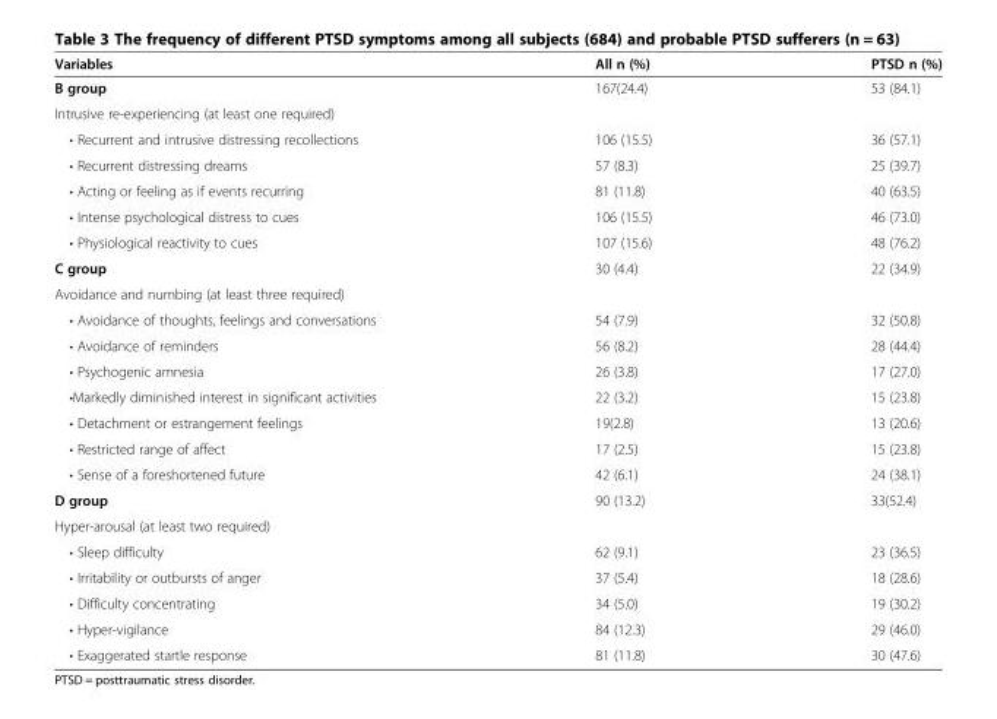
<table><thead><tr><td>Variables</td><td>All n (%)</td><td>PTSD n (%)</td></tr></thead><tbody><tr><td>B group</td><td rowspan="2">167(24.4)</td><td rowspan="2">53 (84.1)</td></tr><tr><td>Intrusive re-experiencing (at least one required)</td></tr><tr><td>• Recurrent and intrusive distressing recollections</td><td>106 (15.5)</td><td>36 (57.1)</td></tr><tr><td>• Recurrent distressing dreams</td><td>57 (8.3)</td><td>25 (39.7)</td></tr><tr><td>• Acting or feeling as if events recurring</td><td>81 (11.8)</td><td>40 (63.5)</td></tr><tr><td>• Intense psychological distress to cues</td><td>106 (15.5)</td><td>46 (73.0)</td></tr><tr><td>• Physiological reactivity to cues</td><td>107 (15.6)</td><td>48 (76.2)</td></tr><tr><td>C group</td><td rowspan="2">30 (4.4)</td><td rowspan="2">22 (34.9)</td></tr><tr><td>Avoidance and numbing (at least three required)</td></tr><tr><td>• Avoidance of thoughts, feelings and conversations</td><td>54 (7.9)</td><td>32 (50.8)</td></tr><tr><td>• Avoidance of reminders</td><td>56 (8.2)</td><td>28 (44.4)</td></tr><tr><td>• Psychogenic amnesia</td><td>26 (3.8)</td><td>17 (27.0)</td></tr><tr><td>•Markedly diminished interest in significant activities</td><td>22 (3.2)</td><td>15 (23.8)</td></tr><tr><td>• Detachment or estrangement feelings</td><td>19(2.8)</td><td>13 (20.6)</td></tr><tr><td>• Restricted range of affect</td><td>17 (2.5)</td><td>15 (23.8)</td></tr><tr><td>• Sense of a foreshortened future</td><td>42 (6.1)</td><td>24 (38.1)</td></tr><tr><td>D group</td><td rowspan="2">90 (13.2)</td><td rowspan="2">33(52.4)</td></tr><tr><td>Hyper-arousal (at least two required)</td></tr><tr><td>• Sleep difficulty</td><td>62 (9.1)</td><td>23 (36.5)</td></tr><tr><td>• Irritability or outbursts of anger</td><td>37 (5.4)</td><td>18 (28.6)</td></tr><tr><td>• Difficulty concentrating</td><td>34 (5.0)</td><td>19 (30.2)</td></tr><tr><td>• Hyper-vigilance</td><td>84 (12.3)</td><td>29 (46.0)</td></tr><tr><td>• Exaggerated startle response</td><td>81 (11.8)</td><td>30 (47.6)</td></tr></tbody></table>